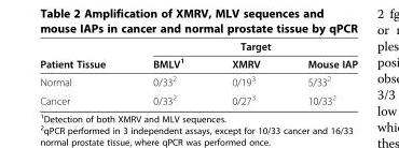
<table><thead><tr><td rowspan="2">Patient Tissue</td><td colspan="3">Target</td></tr><tr><td>BMLV<sup>1</sup></td><td>XMRV</td><td>Mouse IAP</td></tr></thead><tbody><tr><td>Normal</td><td>0/33<sup>2</sup></td><td>0/19<sup>3</sup></td><td>5/33<sup>2</sup></td></tr><tr><td>Cancer</td><td>0/33<sup>2</sup></td><td>0/27<sup>3</sup></td><td>10/33<sup>2</sup></td></tr></tbody></table>